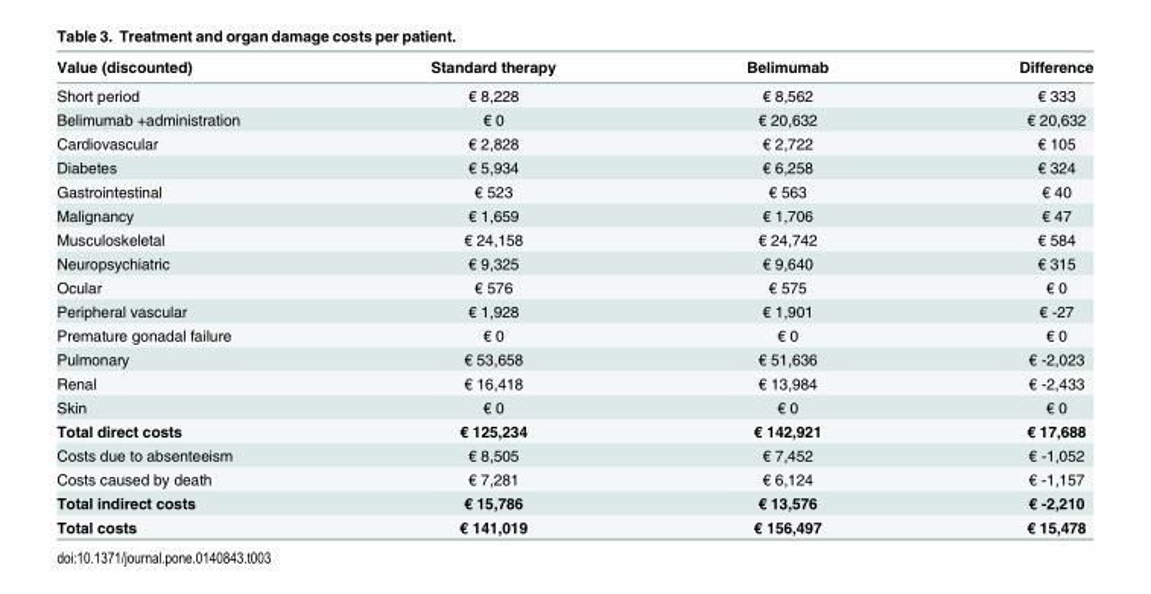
<table><thead><tr><td>Value (discounted)</td><td>Standard therapy</td><td>Belimumab</td><td>Difference</td></tr></thead><tbody><tr><td>Short period</td><td>€ 8,228</td><td>€ 8,562</td><td>€ 333</td></tr><tr><td>Belimumab +administration</td><td>€ 0</td><td>€ 20,632</td><td>€ 20,632</td></tr><tr><td>Cardiovascular</td><td>€ 2,828</td><td>€ 2,722</td><td>€ 105</td></tr><tr><td>Diabetes</td><td>€ 5,934</td><td>€ 6,258</td><td>€ 324</td></tr><tr><td>Gastrointestinal</td><td>€ 523</td><td>€ 563</td><td>€ 40</td></tr><tr><td>Malignancy</td><td>€ 1,659</td><td>€ 1,706</td><td>€ 47</td></tr><tr><td>Musculoskeletal</td><td>€ 24,158</td><td>€ 24,742</td><td>€ 584</td></tr><tr><td>Neuropsychiatric</td><td>€ 9,325</td><td>€ 9,640</td><td>€ 315</td></tr><tr><td>Ocular</td><td>€ 576</td><td>€ 575</td><td>€ 0</td></tr><tr><td>Peripheral vascular</td><td>€ 1,928</td><td>€ 1,901</td><td>€ -27</td></tr><tr><td>Premature gonadal failure</td><td>€ 0</td><td>€ 0</td><td>€ 0</td></tr><tr><td>Pulmonary</td><td>€ 53,658</td><td>€ 51,636</td><td>€ -2,023</td></tr><tr><td>Renal</td><td>€ 16,418</td><td>€ 13,984</td><td>€ -2,433</td></tr><tr><td>Skin</td><td>€ 0</td><td>€ 0</td><td>€ 0</td></tr><tr><td>Total direct costs</td><td>€ 125,234</td><td>€ 142,921</td><td>€ 17,688</td></tr><tr><td>Costs due to absenteeism</td><td>€ 8,505</td><td>€ 7,452</td><td>€ -1,052</td></tr><tr><td>Costs caused by death</td><td>€ 7,281</td><td>€ 6,124</td><td>€ -1,157</td></tr><tr><td>Total indirect costs</td><td>€ 15,786</td><td>€ 13,576</td><td>€ -2,210</td></tr><tr><td>Total costs</td><td>€ 141,019</td><td>€ 156,497</td><td>€ 15,478</td></tr></tbody></table>